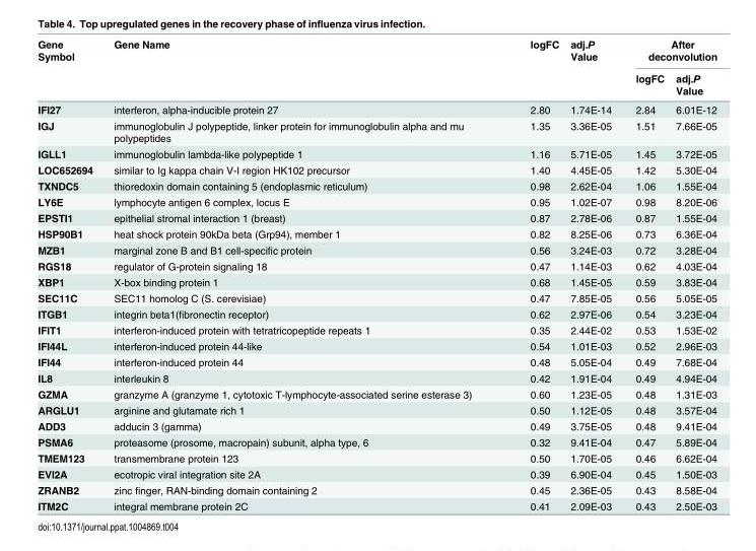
<table><thead><tr><td rowspan="2">Gene Symbol</td><td rowspan="2">Gene Name</td><td rowspan="2">logFC</td><td rowspan="2">adj.P Value</td><td colspan="2">After deconvolution</td></tr><tr><td>logFC</td><td>adj.P Value</td></tr></thead><tbody><tr><td>IFI27</td><td>interferon, alpha-inducible protein 27</td><td>2.80</td><td>1.74E-14</td><td>2.84</td><td>6.01E-12</td></tr><tr><td>IGJ</td><td>immunoglobulin J polypeptide, linker protein for immunoglobulin alpha and mu polypeptides</td><td>1.35</td><td>3.36E-05</td><td>1.51</td><td>7.66E-05</td></tr><tr><td>IGLL1</td><td>immunoglobulin lambda-like polypeptide 1</td><td>1.16</td><td>5.71E-05</td><td>1.45</td><td>3.72E-05</td></tr><tr><td>LOC652694</td><td>similar to Ig kappa chain V-I region HK102 precursor</td><td>1.40</td><td>4.45E-05</td><td>1.42</td><td>5.30E-04</td></tr><tr><td>TXNDC5</td><td>thioredoxin domain containing 5 (endoplasmic reticulum)</td><td>0.98</td><td>2.62E-04</td><td>1.06</td><td>1.55E-04</td></tr><tr><td>LY6E</td><td>lymphocyte antigen 6 complex, locus E</td><td>0.95</td><td>1.02E-07</td><td>0.98</td><td>8.20E-06</td></tr><tr><td>EPSTI1</td><td>epithelial stromal interaction 1 (breast)</td><td>0.87</td><td>2.78E-06</td><td>0.87</td><td>1.55E-04</td></tr><tr><td>HSP90B1</td><td>heat shock protein 90kDa beta (Grp94), member 1</td><td>0.82</td><td>8.25E-06</td><td>0.73</td><td>6.36E-04</td></tr><tr><td>MZB1</td><td>marginal zone B and B1 cell-specific protein</td><td>0.56</td><td>3.24E-03</td><td>0.72</td><td>3.28E-04</td></tr><tr><td>RGS18</td><td>regulator of G-protein signaling 18</td><td>0.47</td><td>1.14E-03</td><td>0.62</td><td>4.03E-04</td></tr><tr><td>XBP1</td><td>X-box binding protein 1</td><td>0.68</td><td>1.45E-05</td><td>0.59</td><td>3.83E-04</td></tr><tr><td>SEC11C</td><td>SEC11 homolog C (S. cerevisiae)</td><td>0.47</td><td>7.85E-05</td><td>0.56</td><td>5.05E-05</td></tr><tr><td>ITGB1</td><td>integrin beta1(fibronectin receptor)</td><td>0.62</td><td>2.97E-06</td><td>0.54</td><td>3.23E-04</td></tr><tr><td>IFIT1</td><td>interferon-induced protein with tetratricopeptide repeats 1</td><td>0.35</td><td>2.44E-02</td><td>0.53</td><td>1.53E-02</td></tr><tr><td>IFI44L</td><td>interferon-induced protein 44-like</td><td>0.54</td><td>1.01E-03</td><td>0.52</td><td>2.96E-03</td></tr><tr><td>IFI44</td><td>interferon-induced protein 44</td><td>0.48</td><td>5.05E-04</td><td>0.49</td><td>7.68E-04</td></tr><tr><td>IL8</td><td>interleukin 8</td><td>0.42</td><td>1.91E-04</td><td>0.49</td><td>4.94E-04</td></tr><tr><td>GZMA</td><td>granzyme A (granzyme 1, cytotoxic T-lymphocyte-associated serine esterase 3)</td><td>0.60</td><td>1.23E-05</td><td>0.48</td><td>1.31E-03</td></tr><tr><td>ARGLU1</td><td>arginine and glutamate rich 1</td><td>0.50</td><td>1.12E-05</td><td>0.48</td><td>3.57E-04</td></tr><tr><td>ADD3</td><td>adducin 3 (gamma)</td><td>0.49</td><td>3.75E-05</td><td>0.48</td><td>9.41E-04</td></tr><tr><td>PSMA6</td><td>proteasome (prosome, macropain) subunit, alpha type, 6</td><td>0.32</td><td>9.41E-04</td><td>0.47</td><td>5.89E-04</td></tr><tr><td>TMEM123</td><td>transmembrane protein 123</td><td>0.50</td><td>1.70E-05</td><td>0.46</td><td>6.62E-04</td></tr><tr><td>EVI2A</td><td>ecotropic viral integration site 2A</td><td>0.39</td><td>6.90E-04</td><td>0.45</td><td>1.50E-03</td></tr><tr><td>ZRANB2</td><td>zinc finger, RAN-binding domain containing 2</td><td>0.45</td><td>2.36E-05</td><td>0.43</td><td>8.58E-04</td></tr><tr><td>ITM2C</td><td>integral membrane protein 2C</td><td>0.41</td><td>2.09E-03</td><td>0.43</td><td>2.50E-03</td></tr></tbody></table>